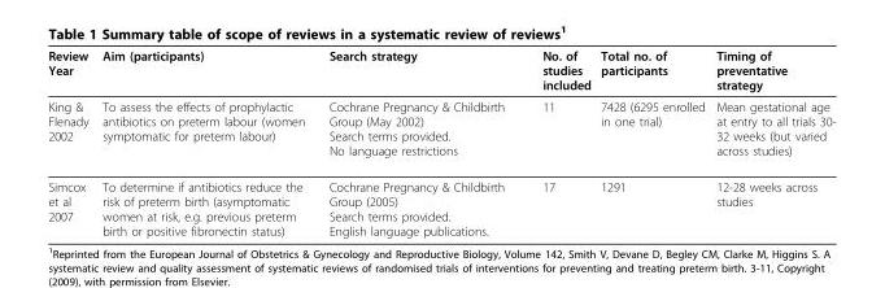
<table><thead><tr><td>Review Year</td><td>Aim (participants)</td><td>Search strategy</td><td>No. of studies included</td><td>Total no. of participants</td><td>Timing of preventative strategy</td></tr></thead><tbody><tr><td>King &amp; Flenady 2002</td><td>To assess the effects of prophylactic antibiotics on preterm labour (women symptomatic for preterm labour)</td><td>Cochrane Pregnancy &amp; Childbirth Group (May 2002) Search terms provided. No language restrictions</td><td>11</td><td>7428 (6295 enrolled in one trial)</td><td>Mean gestational age at entry to all trials 30- 32 weeks (but varied across studies)</td></tr><tr><td>Simcox et al 2007</td><td>To determine if antibiotics reduce the risk of preterm birth (asymptomatic women at risk, e.g. previous preterm birth or positive fibronectin status)</td><td>Cochrane Pregnancy &amp; Childbirth Group (2005) Search terms provided. English language publications.</td><td>17</td><td>1291</td><td>12-28 weeks across studies</td></tr></tbody></table>